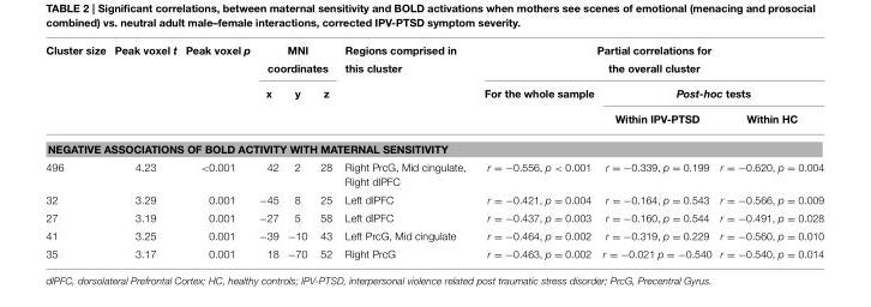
<table><thead><tr><td rowspan="3">Cluster size</td><td rowspan="3">Peak voxel t</td><td rowspan="3">Peak voxel p</td><td colspan="3">MNI coordinates</td><td rowspan="3">Regions comprised in this cluster</td><td colspan="3">Partial correlations for the overall cluster</td></tr><tr><td rowspan="2">x</td><td rowspan="2">y</td><td rowspan="2">z</td><td rowspan="2">For the whole sample</td><td colspan="2">Post-hoc tests</td></tr><tr><td>Within IPV-PTSD</td><td>Within HC</td></tr></thead><tbody><tr><td colspan="10">NEGATIVE ASSOCIATIONS OF BOLD ACTIVITY WITH MATERNAL SENSITIVITY</td></tr><tr><td>496</td><td>4.23</td><td>&lt;0.001</td><td>42</td><td>2</td><td>28</td><td>Right PrcG, Mid cingulate, Right dlPFC</td><td>r = −0.556, p &lt; 0.001</td><td>r = −0.339, p = 0.199</td><td>r = −0.620, p = 0.004</td></tr><tr><td>32</td><td>3.29</td><td>0.001</td><td>−45</td><td>8</td><td>25</td><td>Left dlPFC</td><td>r = −0.421, p = 0.004</td><td>r = −0.164, p = 0.543</td><td>r = −0.566, p = 0.009</td></tr><tr><td>27</td><td>3.19</td><td>0.001</td><td>−27</td><td>5</td><td>58</td><td>Left dlPFC</td><td>r = −0.437, p = 0.003</td><td>r = −0.160, p = 0.544</td><td>r = −0.491, p = 0.028</td></tr><tr><td>41</td><td>3.25</td><td>0.001</td><td>−39</td><td>−10</td><td>43</td><td>Left PrcG, Mid cingulate</td><td>r = −0.464, p = 0.002</td><td>r = −0.319, p = 0.229</td><td>r = −0.560, p = 0.010</td></tr><tr><td>35</td><td>3.17</td><td>0.001</td><td>18</td><td>−70</td><td>52</td><td>Right PrcG</td><td>r = −0.463, p = 0.002</td><td>r = −0.021 p = −0.540</td><td>r = −0.540, p = 0.014</td></tr></tbody></table>